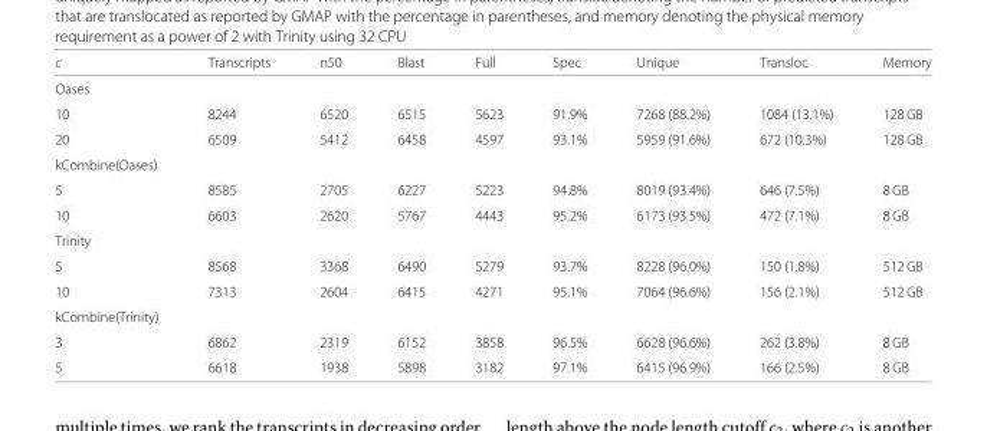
<table><thead><tr><td>c</td><td>Transcripts</td><td>n50</td><td>Blast</td><td>Full</td><td>Spec</td><td>Unique</td><td>Transloc</td><td>Memory</td></tr></thead><tbody><tr><td colspan="9">Oases</td></tr><tr><td>10</td><td>8244</td><td>6520</td><td>6515</td><td>5623</td><td>91.9%</td><td>7268 (88.2%)</td><td>1084 (13.1%)</td><td>128 GB</td></tr><tr><td>20</td><td>6509</td><td>5412</td><td>6458</td><td>4597</td><td>93.1%</td><td>5959 (91.6%)</td><td>672 (10.3%)</td><td>128 GB</td></tr><tr><td colspan="9">kCombine(Oases)</td></tr><tr><td>5</td><td>8585</td><td>2705</td><td>6227</td><td>5223</td><td>94.8%</td><td>8019 (93.4%)</td><td>646 (7.5%)</td><td>8 GB</td></tr><tr><td>10</td><td>6603</td><td>2620</td><td>5767</td><td>4443</td><td>95.2%</td><td>6173 (93.5%)</td><td>472 (7.1%)</td><td>8 GB</td></tr><tr><td colspan="9">Trinity</td></tr><tr><td>5</td><td>8568</td><td>3368</td><td>6490</td><td>5279</td><td>93.7%</td><td>8228 (96.0%)</td><td>150 (1.8%)</td><td>512 GB</td></tr><tr><td>10</td><td>7313</td><td>2604</td><td>6415</td><td>4271</td><td>95.1%</td><td>7064 (96.6%)</td><td>156 (2.1%)</td><td>512 GB</td></tr><tr><td colspan="9">kCombine(Trinity)</td></tr><tr><td>3</td><td>6862</td><td>2319</td><td>6152</td><td>3858</td><td>96.5%</td><td>6628 (96.6%)</td><td>262 (3.8%)</td><td>8 GB</td></tr><tr><td>5</td><td>6618</td><td>1938</td><td>5898</td><td>3182</td><td>97.1%</td><td>6415 (96.9%)</td><td>166 (2.5%)</td><td>8 GB</td></tr></tbody></table>